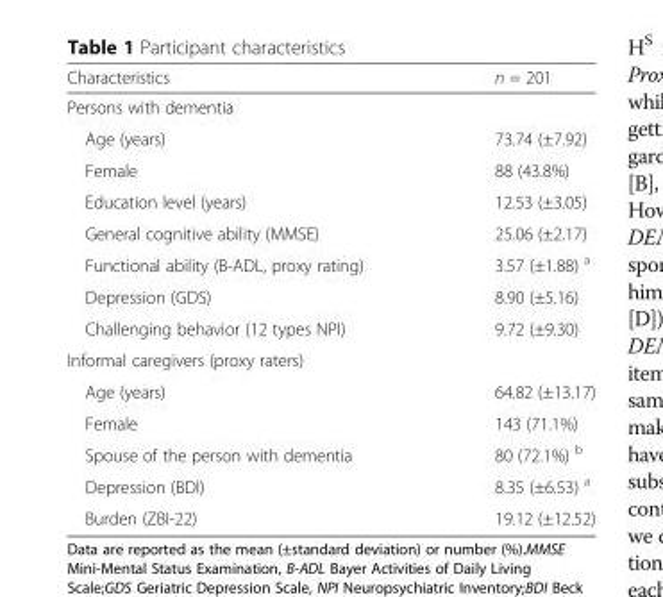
<table><thead><tr><td>Characteristics</td><td>n = 201</td></tr></thead><tbody><tr><td colspan="2">Persons with dementia</td></tr><tr><td>Age (years)</td><td>73.74 (±7.92)</td></tr><tr><td>Female</td><td>88 (43.8%)</td></tr><tr><td>Education level (years)</td><td>12.53 (±3.05)</td></tr><tr><td>General cognitive ability (MMSE)</td><td>25.06 (±2.17)</td></tr><tr><td>Functional ability (B-ADL, proxy rating)</td><td>3.57 (±1.88) <sup>a</sup></td></tr><tr><td>Depression (GDS)</td><td>8.90 (±5.16)</td></tr><tr><td>Challenging behavior (12 types NPI)</td><td>9.72 (±9.30)</td></tr><tr><td colspan="2">Informal caregivers (proxy raters)</td></tr><tr><td>Age (years)</td><td>64.82 (±13.17)</td></tr><tr><td>Female</td><td>143 (71.1%)</td></tr><tr><td>Spouse of the person with dementia</td><td>80 (72.1%) <sup>b</sup></td></tr><tr><td>Depression (BDI)</td><td>8.35 (±6.53) <sup>a</sup></td></tr><tr><td>Burden (ZBI-22)</td><td>19.12 (±12.52)</td></tr></tbody></table>